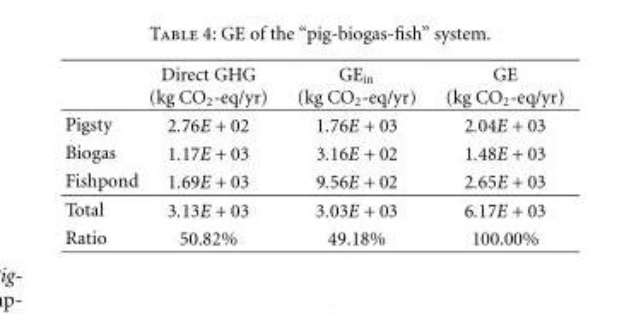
<table><thead><tr><td></td><td>Direct GHG (kg CO<sub>2</sub>-eq/yr)</td><td>GE<sub>in</sub> (kg CO<sub>2</sub>-eq/yr)</td><td>GE (kg CO<sub>2</sub>-eq/yr)</td></tr></thead><tbody><tr><td>Pigsty</td><td>2.76E + 02</td><td>1.76E + 03</td><td>2.04E + 03</td></tr><tr><td>Biogas</td><td>1.17E + 03</td><td>3.16E + 02</td><td>1.48E + 03</td></tr><tr><td>Fishpond</td><td>1.69E + 03</td><td>9.56E + 02</td><td>2.65E + 03</td></tr><tr><td>Total</td><td>3.13E + 03</td><td>3.03E + 03</td><td>6.17E + 03</td></tr><tr><td>Ratio</td><td>50.82%</td><td>49.18%</td><td>100.00%</td></tr></tbody></table>